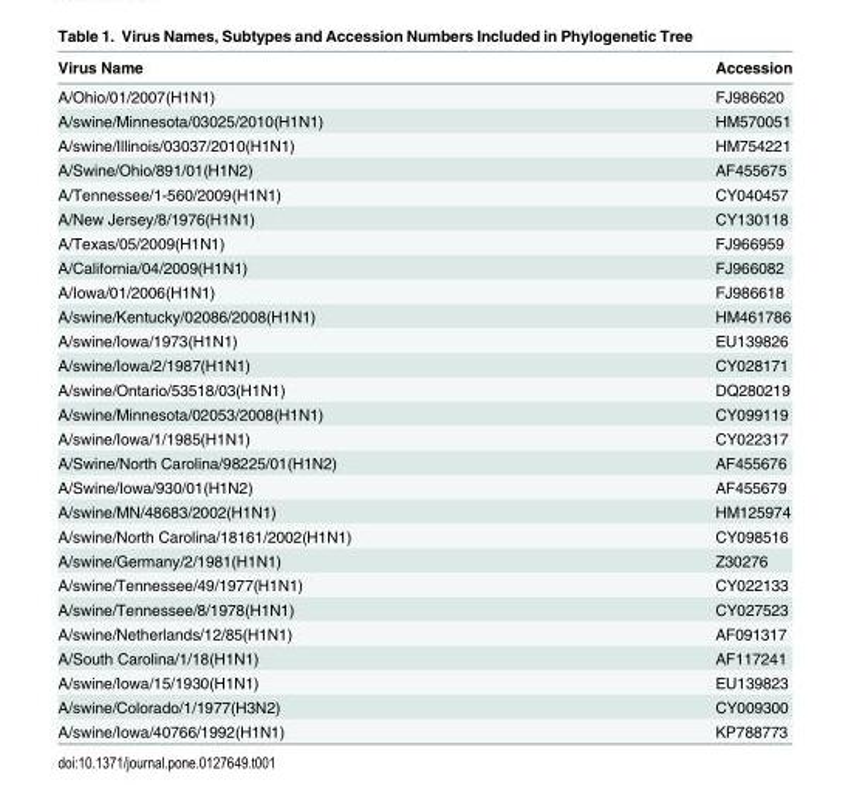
<table><thead><tr><td>Virus Name</td><td>Accession</td></tr></thead><tbody><tr><td>A/Ohio/01/2007(H1N1)</td><td>FJ986620</td></tr><tr><td>A/swine/Minnesota/03025/2010(H1N1)</td><td>HM570051</td></tr><tr><td>A/swine/Illinois/03037/2010(H1N1)</td><td>HM754221</td></tr><tr><td>A/Swine/Ohio/891/01(H1N2)</td><td>AF455675</td></tr><tr><td>A/Tennessee/1-560/2009(H1N1)</td><td>CY040457</td></tr><tr><td>A/New Jersey/8/1976(H1N1)</td><td>CY130118</td></tr><tr><td>A/Texas/05/2009(H1N1)</td><td>FJ966959</td></tr><tr><td>A/California/04/2009(H1N1)</td><td>FJ966082</td></tr><tr><td>A/Iowa/01/2006(H1N1)</td><td>FJ986618</td></tr><tr><td>A/swine/Kentucky/02086/2008(H1N1)</td><td>HM461786</td></tr><tr><td>A/swine/Iowa/1973(H1N1)</td><td>EU139826</td></tr><tr><td>A/swine/Iowa/2/1987(H1N1)</td><td>CY028171</td></tr><tr><td>A/swine/Ontario/53518/03(H1N1)</td><td>DQ280219</td></tr><tr><td>A/swine/Minnesota/02053/2008(H1N1)</td><td>CY099119</td></tr><tr><td>A/swine/Iowa/1/1985(H1N1)</td><td>CY022317</td></tr><tr><td>A/Swine/North Carolina/98225/01(H1N2)</td><td>AF455676</td></tr><tr><td>A/Swine/Iowa/930/01(H1N2)</td><td>AF455679</td></tr><tr><td>A/swine/MN/48683/2002(H1N1)</td><td>HM125974</td></tr><tr><td>A/swine/North Carolina/18161/2002(H1N1)</td><td>CY098516</td></tr><tr><td>A/swine/Germany/2/1981(H1N1)</td><td>Z30276</td></tr><tr><td>A/swine/Tennessee/49/1977(H1N1)</td><td>CY022133</td></tr><tr><td>A/swine/Tennessee/8/1978(H1N1)</td><td>CY027523</td></tr><tr><td>A/swine/Netherlands/12/85(H1N1)</td><td>AF091317</td></tr><tr><td>A/South Carolina/1/18(H1N1)</td><td>AF117241</td></tr><tr><td>A/swine/Iowa/15/1930(H1N1)</td><td>EU139823</td></tr><tr><td>A/swine/Colorado/1/1977(H3N2)</td><td>CY009300</td></tr><tr><td>A/swine/Iowa/40766/1992(H1N1)</td><td>KP788773</td></tr></tbody></table>